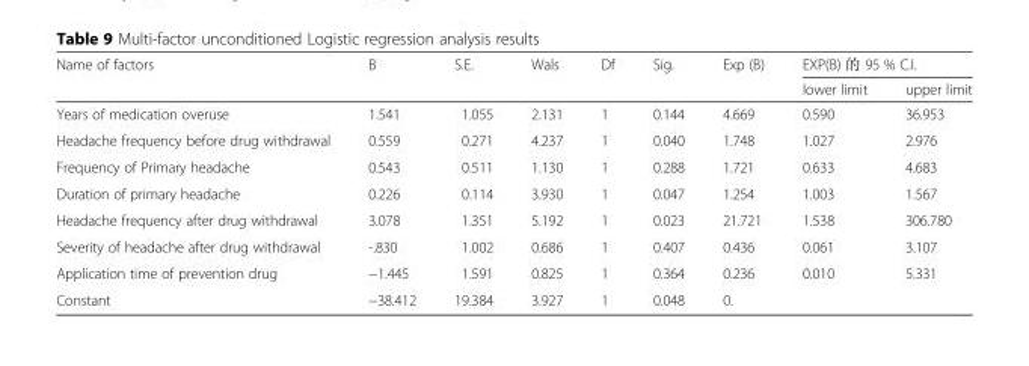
<table><thead><tr><td rowspan="2">Name of factors</td><td rowspan="2">B</td><td rowspan="2">S.E.</td><td rowspan="2">Wals</td><td rowspan="2">Df</td><td rowspan="2">Sig.</td><td rowspan="2">Exp (B)</td><td colspan="2">EXP(B) 的 95 % C.I.</td></tr><tr><td>lower limit</td><td>upper limit</td></tr></thead><tbody><tr><td>Years of medication overuse</td><td>1.541</td><td>1.055</td><td>2.131</td><td>1</td><td>0.144</td><td>4.669</td><td>0.590</td><td>36.953</td></tr><tr><td>Headache frequency before drug withdrawal</td><td>0.559</td><td>0.271</td><td>4.237</td><td>1</td><td>0.040</td><td>1.748</td><td>1.027</td><td>2.976</td></tr><tr><td>Frequency of Primary headache</td><td>0.543</td><td>0.511</td><td>1.130</td><td>1</td><td>0.288</td><td>1.721</td><td>0.633</td><td>4.683</td></tr><tr><td>Duration of primary headache</td><td>0.226</td><td>0.114</td><td>3.930</td><td>1</td><td>0.047</td><td>1.254</td><td>1.003</td><td>1.567</td></tr><tr><td>Headache frequency after drug withdrawal</td><td>3.078</td><td>1.351</td><td>5.192</td><td>1</td><td>0.023</td><td>21.721</td><td>1.538</td><td>306.780</td></tr><tr><td>Severity of headache after drug withdrawal</td><td>-.830</td><td>1.002</td><td>0.686</td><td>1</td><td>0.407</td><td>0.436</td><td>0.061</td><td>3.107</td></tr><tr><td>Application time of prevention drug</td><td>−1.445</td><td>1.591</td><td>0.825</td><td>1</td><td>0.364</td><td>0.236</td><td>0.010</td><td>5.331</td></tr><tr><td>Constant</td><td>−38.412</td><td>19.384</td><td>3.927</td><td>1</td><td>0.048</td><td>0.</td><td></td><td></td></tr></tbody></table>